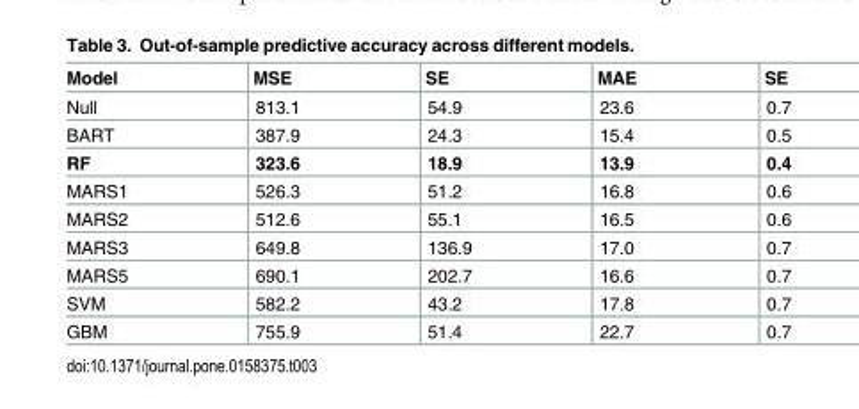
<table><thead><tr><td>Model</td><td>MSE</td><td>SE</td><td>MAE</td><td>SE</td></tr></thead><tbody><tr><td>Null</td><td>813.1</td><td>54.9</td><td>23.6</td><td>0.7</td></tr><tr><td>BART</td><td>387.9</td><td>24.3</td><td>15.4</td><td>0.5</td></tr><tr><td>RF</td><td>323.6</td><td>18.9</td><td>13.9</td><td>0.4</td></tr><tr><td>MARS1</td><td>526.3</td><td>51.2</td><td>16.8</td><td>0.6</td></tr><tr><td>MARS2</td><td>512.6</td><td>55.1</td><td>16.5</td><td>0.6</td></tr><tr><td>MARS3</td><td>649.8</td><td>136.9</td><td>17.0</td><td>0.7</td></tr><tr><td>MARS5</td><td>690.1</td><td>202.7</td><td>16.6</td><td>0.7</td></tr><tr><td>SVM</td><td>582.2</td><td>43.2</td><td>17.8</td><td>0.7</td></tr><tr><td>GBM</td><td>755.9</td><td>51.4</td><td>22.7</td><td>0.7</td></tr></tbody></table>